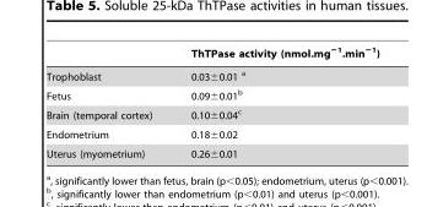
<table><thead><tr><td></td><td>ThTPase activity (nmol.mg<sup>−1</sup>.min<sup>−1</sup>)</td></tr></thead><tbody><tr><td>Trophoblast</td><td>0.03±0.01 a</td></tr><tr><td>Fetus</td><td>0.09±0.01<sup>b</sup></td></tr><tr><td>Brain (temporal cortex)</td><td>0.10±0.04<sup>c</sup></td></tr><tr><td>Endometrium</td><td>0.18±0.02</td></tr><tr><td>Uterus (myometrium)</td><td>0.26±0.01</td></tr></tbody></table>